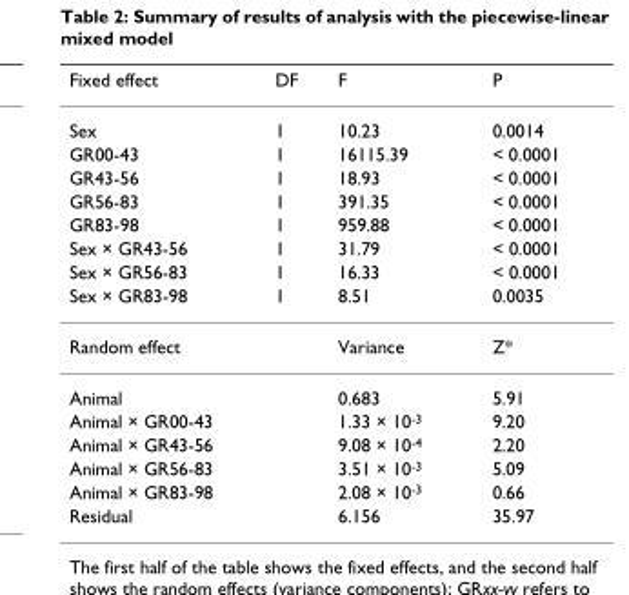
<table><thead><tr><td>Fixed effect</td><td>DF</td><td>F</td><td>P</td></tr></thead><tbody><tr><td>Sex</td><td>1</td><td>10.23</td><td>0.0014</td></tr><tr><td>GR00-43</td><td>1</td><td>16115.39</td><td>&lt; 0.0001</td></tr><tr><td>GR43-56</td><td>1</td><td>18.93</td><td>&lt; 0.0001</td></tr><tr><td>GR56-83</td><td>1</td><td>391.35</td><td>&lt; 0.0001</td></tr><tr><td>GR83-98</td><td>1</td><td>959.88</td><td>&lt; 0.0001</td></tr><tr><td>Sex × GR43-56</td><td>1</td><td>31.79</td><td>&lt; 0.0001</td></tr><tr><td>Sex × GR56-83</td><td>1</td><td>16.33</td><td>&lt; 0.0001</td></tr><tr><td>Sex × GR83-98</td><td>1</td><td>8.51</td><td>0.0035</td></tr><tr><td colspan="2">Random effect</td><td>Variance</td><td>Z*</td></tr><tr><td colspan="2">Animal</td><td>0.683</td><td>5.91</td></tr><tr><td colspan="2">Animal × GR00-43</td><td>1.33 × 10<sup>-3</sup></td><td>9.20</td></tr><tr><td colspan="2">Animal × GR43-56</td><td>9.08 × 10<sup>-4</sup></td><td>2.20</td></tr><tr><td colspan="2">Animal × GR56-83</td><td>3.51 × 10<sup>-3</sup></td><td>5.09</td></tr><tr><td colspan="2">Animal × GR83-98</td><td>2.08 × 10<sup>-3</sup></td><td>0.66</td></tr><tr><td colspan="2">Residual</td><td>6.156</td><td>35.97</td></tr></tbody></table>